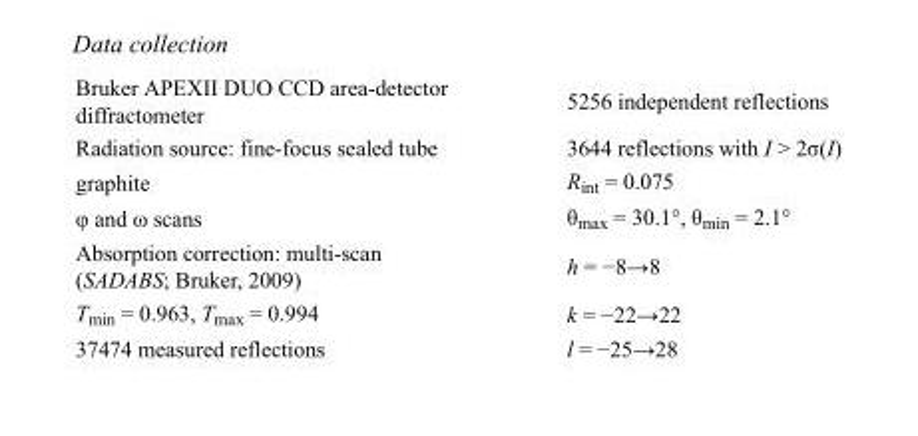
<table><tbody><tr><td>Bruker APEXII DUO CCD area-detector diffractometer</td><td>5256 independent reflections</td></tr><tr><td>Radiation source: fine-focus sealed tube</td><td>3644 reflections with I &gt; 2σ(I)</td></tr><tr><td>graphite</td><td>R<sub>int</sub> = 0.075</td></tr><tr><td>φ and ω scans</td><td>θ<sub>max</sub> = 30.1°, θ<sub>min</sub> = 2.1°</td></tr><tr><td>Absorption correction: multi-scan (SADABS; Bruker, 2009)</td><td>h = −8→8</td></tr><tr><td>T<sub>min</sub> = 0.963, T<sub>max</sub> = 0.994</td><td>k = −22→22</td></tr><tr><td>37474 measured reflections</td><td>l = −25→28</td></tr></tbody></table>